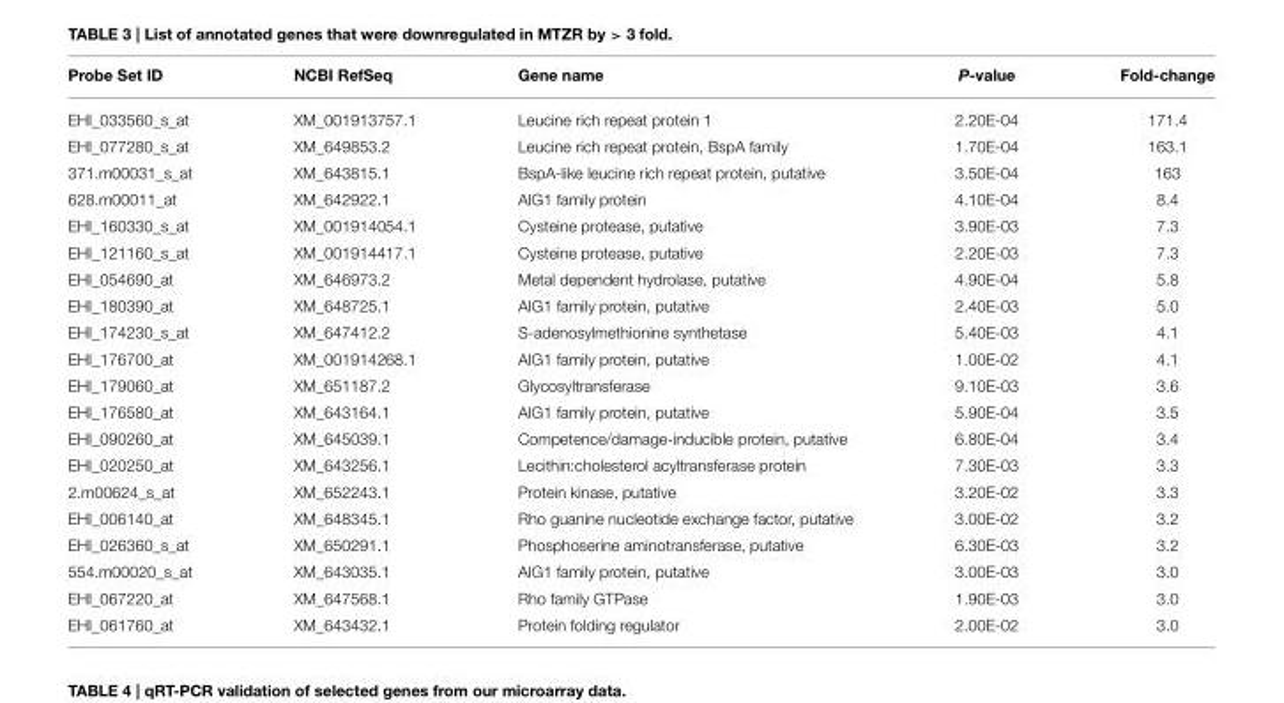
<table><thead><tr><td>Probe Set ID</td><td>NCBI RefSeq</td><td>Gene name</td><td>P-value</td><td>Fold-change</td></tr></thead><tbody><tr><td>EHI_033560_s_at</td><td>XM_001913757.1</td><td>Leucine rich repeat protein 1</td><td>2.20E-04</td><td>171.4</td></tr><tr><td>EHI_077280_s_at</td><td>XM_649853.2</td><td>Leucine rich repeat protein, BspA family</td><td>1.70E-04</td><td>163.1</td></tr><tr><td>371.m00031_s_at</td><td>XM_643815.1</td><td>BspA-like leucine rich repeat protein, putative</td><td>3.50E-04</td><td>163</td></tr><tr><td>628.m00011_at</td><td>XM_642922.1</td><td>AIG1 family protein</td><td>4.10E-04</td><td>8.4</td></tr><tr><td>EHI_160330_s_at</td><td>XM_001914054.1</td><td>Cysteine protease, putative</td><td>3.90E-03</td><td>7.3</td></tr><tr><td>EHI_121160_s_at</td><td>XM_001914417.1</td><td>Cysteine protease, putative</td><td>2.20E-03</td><td>7.3</td></tr><tr><td>EHI_054690_at</td><td>XM_646973.2</td><td>Metal dependent hydrolase, putative</td><td>4.90E-04</td><td>5.8</td></tr><tr><td>EHI_180390_at</td><td>XM_648725.1</td><td>AIG1 family protein, putative</td><td>2.40E-03</td><td>5.0</td></tr><tr><td>EHI_174230_s_at</td><td>XM_647412.2</td><td>S-adenosylmethionine synthetase</td><td>5.40E-03</td><td>4.1</td></tr><tr><td>EHI_176700_at</td><td>XM_001914268.1</td><td>AIG1 family protein, putative</td><td>1.00E-02</td><td>4.1</td></tr><tr><td>EHI_179060_at</td><td>XM_651187.2</td><td>Glycosyltransferase</td><td>9.10E-03</td><td>3.6</td></tr><tr><td>EHI_176580_at</td><td>XM_643164.1</td><td>AIG1 family protein, putative</td><td>5.90E-04</td><td>3.5</td></tr><tr><td>EHI_090260_at</td><td>XM_645039.1</td><td>Competence/damage-inducible protein, putative</td><td>6.80E-04</td><td>3.4</td></tr><tr><td>EHI_020250_at</td><td>XM_643256.1</td><td>Lecithin:cholesterol acyltransferase protein</td><td>7.30E-03</td><td>3.3</td></tr><tr><td>2.m00624_s_at</td><td>XM_652243.1</td><td>Protein kinase, putative</td><td>3.20E-02</td><td>3.3</td></tr><tr><td>EHI_006140_at</td><td>XM_648345.1</td><td>Rho guanine nucleotide exchange factor, putative</td><td>3.00E-02</td><td>3.2</td></tr><tr><td>EHI_026360_s_at</td><td>XM_650291.1</td><td>Phosphoserine aminotransferase, putative</td><td>6.30E-03</td><td>3.2</td></tr><tr><td>554.m00020_s_at</td><td>XM_643035.1</td><td>AIG1 family protein, putative</td><td>3.00E-03</td><td>3.0</td></tr><tr><td>EHI_067220_at</td><td>XM_647568.1</td><td>Rho family GTPase</td><td>1.90E-03</td><td>3.0</td></tr><tr><td>EHI_061760_at</td><td>XM_643432.1</td><td>Protein folding regulator</td><td>2.00E-02</td><td>3.0</td></tr></tbody></table>